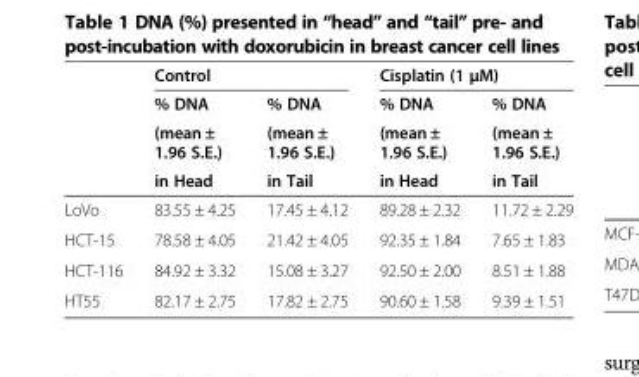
<table><thead><tr><td rowspan="4"></td><td colspan="2">Control</td><td colspan="2">Cisplatin (1 μΜ)</td></tr><tr><td rowspan="3">% DNA (mean ± 1.96 S.E.) in Head</td><td rowspan="3">% DNA (mean ± 1.96 S.E.) in Tail</td><td rowspan="3">% DNA (mean ± 1.96 S.E.) in Head</td><td rowspan="3">% DNA (mean ± 1.96 S.E.) in Tail</td></tr><tr></tr><tr></tr></thead><tbody><tr><td>LoVo</td><td>83.55 ± 4.25</td><td>17.45 ± 4.12</td><td>89.28 ± 2.32</td><td>11.72 ± 2.29</td></tr><tr><td>HCT-15</td><td>78.58 ± 4.05</td><td>21.42 ± 4.05</td><td>92.35 ± 1.84</td><td>7.65 ± 1.83</td></tr><tr><td>HCT-116</td><td>84.92 ± 3.32</td><td>15.08 ± 3.27</td><td>92.50 ± 2.00</td><td>8.51 ± 1.88</td></tr><tr><td>HT55</td><td>82.17 ± 2.75</td><td>17.82 ± 2.75</td><td>90.60 ± 1.58</td><td>9.39 ± 1.51</td></tr></tbody></table>